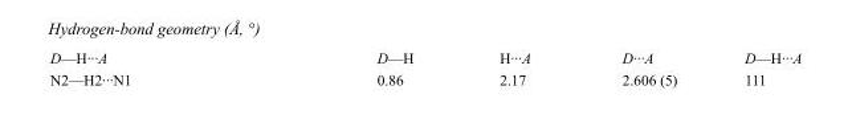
<table><tbody><tr><td>D—H···A</td><td>D—H</td><td>H···A</td><td>D···A</td><td>D—H···A</td></tr><tr><td>N2—H2···N1</td><td>0.86</td><td>2.17</td><td>2.606 (5)</td><td>111</td></tr></tbody></table>